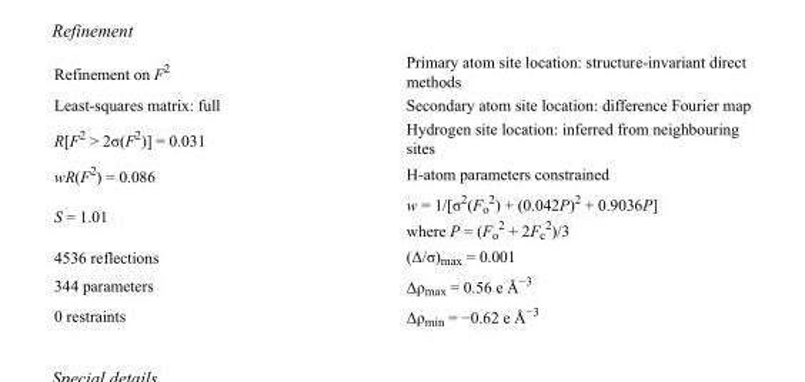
<table><tbody><tr><td>Refinement on F<sup>2</sup></td><td>Primary atom site location: structure-invariant direct methods</td></tr><tr><td>Least-squares matrix: full</td><td>Secondary atom site location: difference Fourier map</td></tr><tr><td>R[F<sup>2</sup> &gt; 2σ(F<sup>2</sup>)] = 0.031</td><td>Hydrogen site location: inferred from neighbouring sites</td></tr><tr><td>wR(F<sup>2</sup>) = 0.086</td><td>H-atom parameters constrained</td></tr><tr><td>S = 1.01</td><td>w = 1/[σ<sup>2</sup>(F<sub>o</sub> <sup>2</sup>) + (0.042P)<sup>2</sup> + 0.9036P] where P = (F<sub>o</sub> <sup>2</sup> + 2F<sub>c</sub> <sup>2</sup>)/3</td></tr><tr><td>4536 reflections</td><td>(Δ/σ)<sub>max</sub> = 0.001</td></tr><tr><td>344 parameters</td><td>Δρ<sub>max</sub> = 0.56 e Å<sup>−3</sup></td></tr><tr><td>0 restraints</td><td>Δρ<sub>min</sub> = −0.62 e Å<sup>−3</sup></td></tr></tbody></table>